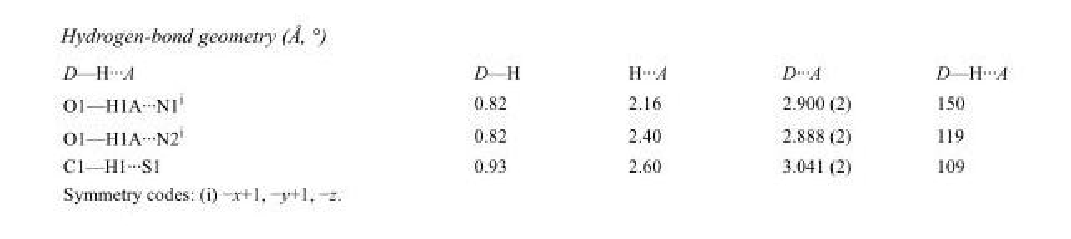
<table><tbody><tr><td>D—H···A</td><td>D—H</td><td>H···A</td><td>D···A</td><td>D—H···A</td></tr><tr><td>O1—H1A···N1<sup>i</sup></td><td>0.82</td><td>2.16</td><td>2.900 (2)</td><td>150</td></tr><tr><td>O1—H1A···N2<sup>i</sup></td><td>0.82</td><td>2.40</td><td>2.888 (2)</td><td>119</td></tr><tr><td>C1—H1···S1</td><td>0.93</td><td>2.60</td><td>3.041 (2)</td><td>109</td></tr></tbody></table>